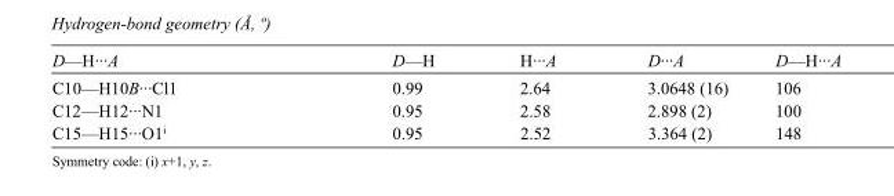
<table><tbody><tr><td>D—H···A</td><td>D—H</td><td>H···A</td><td>D···A</td><td>D—H···A</td></tr><tr><td>C10—H10B···Cl1</td><td>0.99</td><td>2.64</td><td>3.0648 (16)</td><td>106</td></tr><tr><td>C12—H12···N1</td><td>0.95</td><td>2.58</td><td>2.898 (2)</td><td>100</td></tr><tr><td>C15—H15···O1<sup>i</sup></td><td>0.95</td><td>2.52</td><td>3.364 (2)</td><td>148</td></tr></tbody></table>